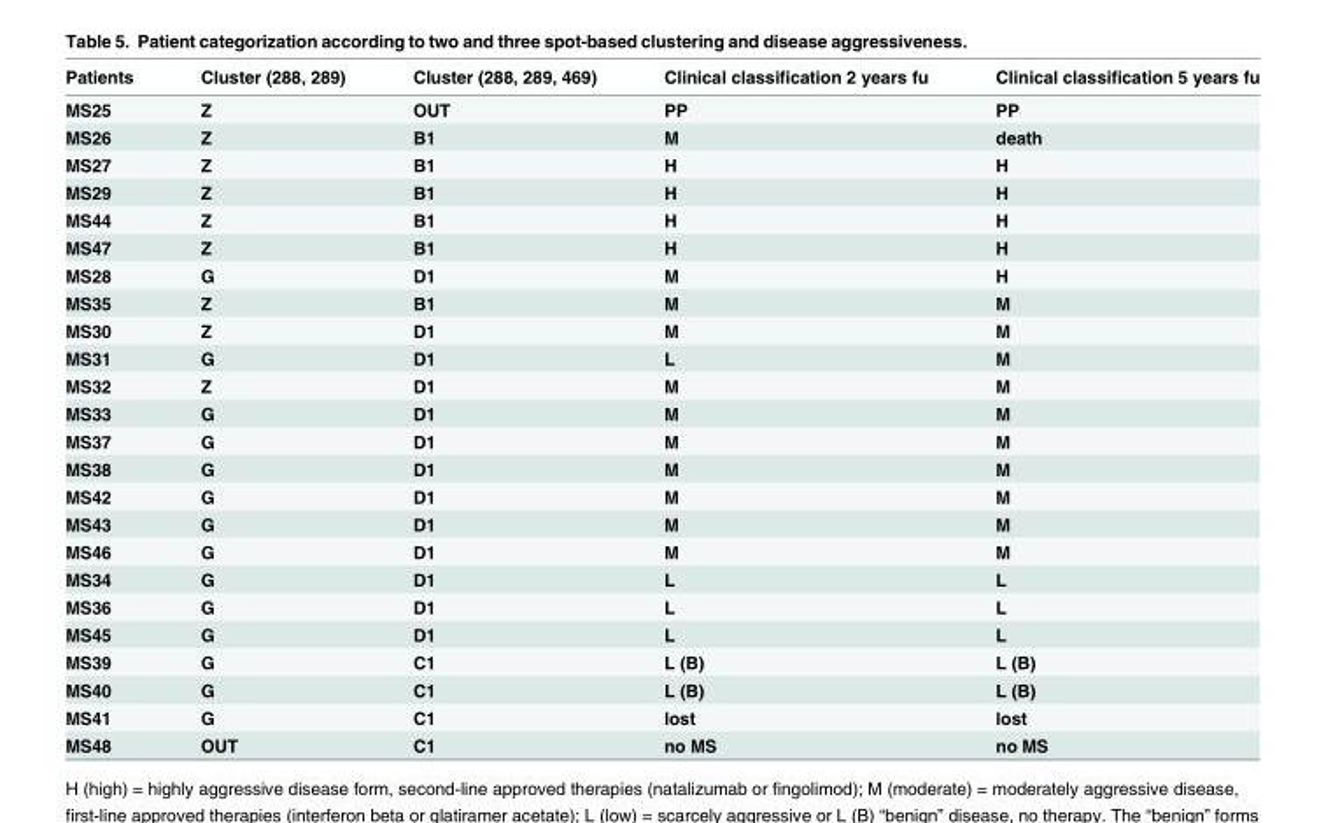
<table><thead><tr><td>Patients</td><td>Cluster (288, 289)</td><td>Cluster (288, 289, 469)</td><td>Clinical classification 2 years fu</td><td>Clinical classification 5 years fu</td></tr></thead><tbody><tr><td>MS25</td><td>Z</td><td>OUT</td><td>PP</td><td>PP</td></tr><tr><td>MS26</td><td>Z</td><td>B1</td><td>M</td><td>death</td></tr><tr><td>MS27</td><td>Z</td><td>B1</td><td>H</td><td>H</td></tr><tr><td>MS29</td><td>Z</td><td>B1</td><td>H</td><td>H</td></tr><tr><td>MS44</td><td>Z</td><td>B1</td><td>H</td><td>H</td></tr><tr><td>MS47</td><td>Z</td><td>B1</td><td>H</td><td>H</td></tr><tr><td>MS28</td><td>G</td><td>D1</td><td>M</td><td>H</td></tr><tr><td>MS35</td><td>Z</td><td>B1</td><td>M</td><td>M</td></tr><tr><td>MS30</td><td>Z</td><td>D1</td><td>M</td><td>M</td></tr><tr><td>MS31</td><td>G</td><td>D1</td><td>L</td><td>M</td></tr><tr><td>MS32</td><td>Z</td><td>D1</td><td>M</td><td>M</td></tr><tr><td>MS33</td><td>G</td><td>D1</td><td>M</td><td>M</td></tr><tr><td>MS37</td><td>G</td><td>D1</td><td>M</td><td>M</td></tr><tr><td>MS38</td><td>G</td><td>D1</td><td>M</td><td>M</td></tr><tr><td>MS42</td><td>G</td><td>D1</td><td>M</td><td>M</td></tr><tr><td>MS43</td><td>G</td><td>D1</td><td>M</td><td>M</td></tr><tr><td>MS46</td><td>G</td><td>D1</td><td>M</td><td>M</td></tr><tr><td>MS34</td><td>G</td><td>D1</td><td>L</td><td>L</td></tr><tr><td>MS36</td><td>G</td><td>D1</td><td>L</td><td>L</td></tr><tr><td>MS45</td><td>G</td><td>D1</td><td>L</td><td>L</td></tr><tr><td>MS39</td><td>G</td><td>C1</td><td>L (B)</td><td>L (B)</td></tr><tr><td>MS40</td><td>G</td><td>C1</td><td>L (B)</td><td>L (B)</td></tr><tr><td>MS41</td><td>G</td><td>C1</td><td>lost</td><td>lost</td></tr><tr><td>MS48</td><td>OUT</td><td>C1</td><td>no MS</td><td>no MS</td></tr></tbody></table>